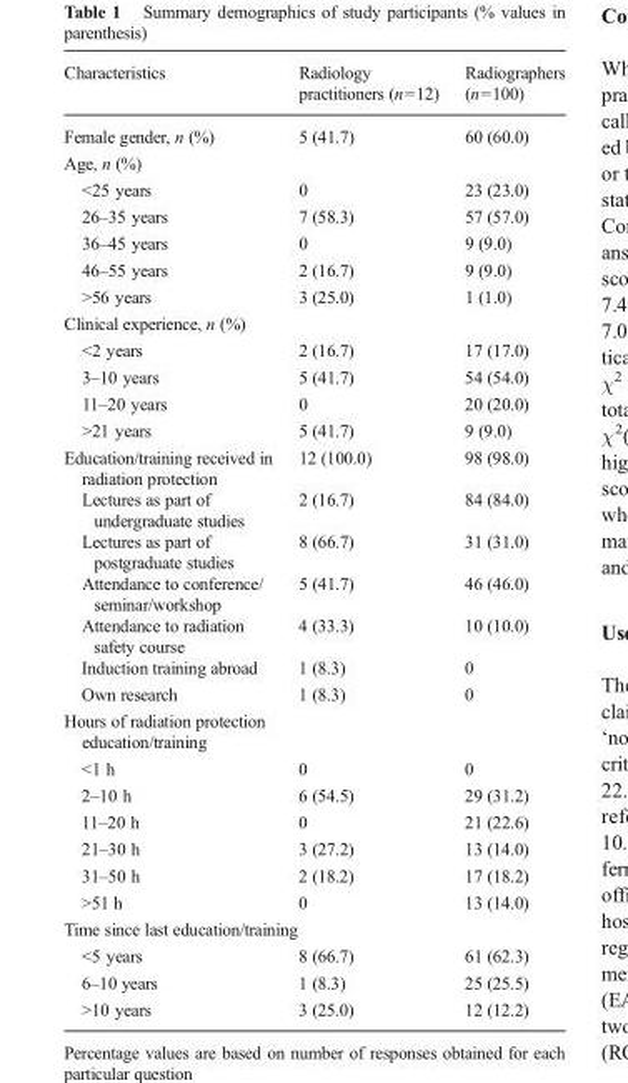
<table><thead><tr><td>Characteristics</td><td>Radiology practitioners (n=12)</td><td>Radiographers (n=100)</td></tr></thead><tbody><tr><td>Female gender, n (%)</td><td>5 (41.7)</td><td>60 (60.0)</td></tr><tr><td colspan="3">Age, n (%)</td></tr><tr><td>&lt;25 years</td><td>0</td><td>23 (23.0)</td></tr><tr><td>26–35 years</td><td>7 (58.3)</td><td>57 (57.0)</td></tr><tr><td>36–45 years</td><td>0</td><td>9 (9.0)</td></tr><tr><td>46–55 years</td><td>2 (16.7)</td><td>9 (9.0)</td></tr><tr><td>&gt;56 years</td><td>3 (25.0)</td><td>1 (1.0)</td></tr><tr><td colspan="3">Clinical experience, n (%)</td></tr><tr><td>&lt;2 years</td><td>2 (16.7)</td><td>17 (17.0)</td></tr><tr><td>3–10 years</td><td>5 (41.7)</td><td>54 (54.0)</td></tr><tr><td>11–20 years</td><td>0</td><td>20 (20.0)</td></tr><tr><td>&gt;21 years</td><td>5 (41.7)</td><td>9 (9.0)</td></tr><tr><td>Education/training received in radiation protection</td><td>12 (100.0)</td><td>98 (98.0)</td></tr><tr><td>Lectures as part of undergraduate studies</td><td>2 (16.7)</td><td>84 (84.0)</td></tr><tr><td>Lectures as part of postgraduate studies</td><td>8 (66.7)</td><td>31 (31.0)</td></tr><tr><td>Attendance to conference/ seminar/workshop</td><td>5 (41.7)</td><td>46 (46.0)</td></tr><tr><td>Attendance to radiation safety course</td><td>4 (33.3)</td><td>10 (10.0)</td></tr><tr><td>Induction training abroad</td><td>1 (8.3)</td><td>0</td></tr><tr><td>Own research</td><td>1 (8.3)</td><td>0</td></tr><tr><td colspan="3">Hours of radiation protection education/training</td></tr><tr><td>&lt;1 h</td><td>0</td><td>0</td></tr><tr><td>2–10 h</td><td>6 (54.5)</td><td>29 (31.2)</td></tr><tr><td>11–20 h</td><td>0</td><td>21 (22.6)</td></tr><tr><td>21–30 h</td><td>3 (27.2)</td><td>13 (14.0)</td></tr><tr><td>31–50 h</td><td>2 (18.2)</td><td>17 (18.2)</td></tr><tr><td>&gt;51 h</td><td>0</td><td>13 (14.0)</td></tr><tr><td colspan="3">Time since last education/training</td></tr><tr><td>&lt;5 years</td><td>8 (66.7)</td><td>61 (62.3)</td></tr><tr><td>6–10 years</td><td>1 (8.3)</td><td>25 (25.5)</td></tr><tr><td>&gt;10 years</td><td>3 (25.0)</td><td>12 (12.2)</td></tr></tbody></table>